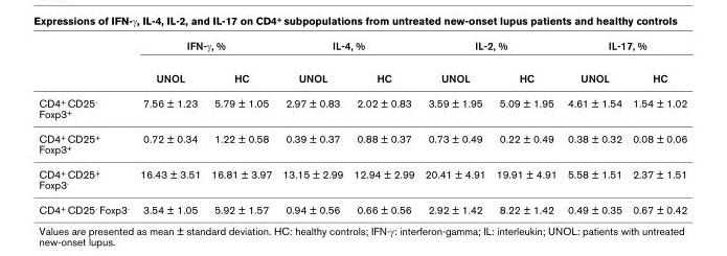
<table><thead><tr><td rowspan="2"></td><td colspan="2">IFN-γ, %</td><td colspan="2">IL-4, %</td><td colspan="2">IL-2, %</td><td colspan="2">IL-17, %</td></tr><tr><td>UNOL</td><td>HC</td><td>UNOL</td><td>HC</td><td>UNOL</td><td>HC</td><td>UNOL</td><td>HC</td></tr></thead><tbody><tr><td>CD4<sup>+</sup> CD25<sup>-</sup> Foxp3<sup>+</sup></td><td>7.56 ± 1.23</td><td>5.79 ± 1.05</td><td>2.97 ± 0.83</td><td>2.02 ± 0.83</td><td>3.59 ± 1.95</td><td>5.09 ± 1.95</td><td>4.61 ± 1.54</td><td>1.54 ± 1.02</td></tr><tr><td>CD4<sup>+</sup> CD25<sup>+</sup> Foxp3<sup>+</sup></td><td>0.72 ± 0.34</td><td>1.22 ± 0.58</td><td>0.39 ± 0.37</td><td>0.88 ± 0.37</td><td>0.73 ± 0.49</td><td>0.22 ± 0.49</td><td>0.38 ± 0.32</td><td>0.08 ± 0.06</td></tr><tr><td>CD4<sup>+</sup> CD25<sup>+</sup> Foxp3<sup>-</sup></td><td>16.43 ± 3.51</td><td>16.81 ± 3.97</td><td>13.15 ± 2.99</td><td>12.94 ± 2.99</td><td>20.41 ± 4.91</td><td>19.91 ± 4.91</td><td>5.58 ± 1.51</td><td>2.37 ± 1.51</td></tr><tr><td>CD4<sup>+</sup> CD25<sup>-</sup> Foxp3<sup>-</sup></td><td>3.54 ± 1.05</td><td>5.92 ± 1.57</td><td>0.94 ± 0.56</td><td>0.66 ± 0.56</td><td>2.92 ± 1.42</td><td>8.22 ± 1.42</td><td>0.49 ± 0.35</td><td>0.67 ± 0.42</td></tr></tbody></table>